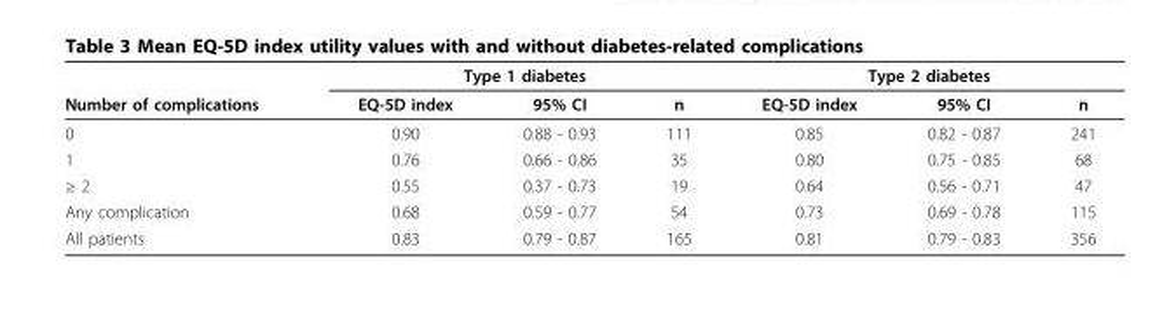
<table><thead><tr><td rowspan="2">Number of complications</td><td colspan="3">Type 1 diabetes</td><td colspan="3">Type 2 diabetes</td></tr><tr><td>EQ-5D index</td><td>95% CI</td><td>n</td><td>EQ-5D index</td><td>95% CI</td><td>n</td></tr></thead><tbody><tr><td>0</td><td>0.90</td><td>0.88 - 0.93</td><td>111</td><td>0.85</td><td>0.82 - 0.87</td><td>241</td></tr><tr><td>1</td><td>0.76</td><td>0.66 - 0.86</td><td>35</td><td>0.80</td><td>0.75 - 0.85</td><td>68</td></tr><tr><td>≥ 2</td><td>0.55</td><td>0.37 - 0.73</td><td>19</td><td>0.64</td><td>0.56 - 0.71</td><td>47</td></tr><tr><td>Any complication</td><td>0.68</td><td>0.59 - 0.77</td><td>54</td><td>0.73</td><td>0.69 - 0.78</td><td>115</td></tr><tr><td>All patients</td><td>0.83</td><td>0.79 - 0.87</td><td>165</td><td>0.81</td><td>0.79 - 0.83</td><td>356</td></tr></tbody></table>